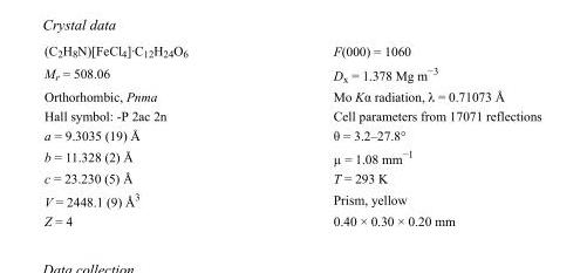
<table><tbody><tr><td>(C<sub>2</sub>H<sub>8</sub>N)[FeCl<sub>4</sub>]·C<sub>12</sub>H<sub>24</sub>O<sub>6</sub></td><td>F(000) = 1060</td></tr><tr><td>M<sub>r</sub> = 508.06</td><td>D<sub>x</sub> = 1.378 Mg m<sup>−3</sup></td></tr><tr><td>Orthorhombic, Pnma</td><td>Mo Kα radiation, λ = 0.71073 Å</td></tr><tr><td>Hall symbol: -P 2ac 2n</td><td>Cell parameters from 17071 reflections</td></tr><tr><td>a = 9.3035 (19) Å</td><td>θ = 3.2–27.8°</td></tr><tr><td>b = 11.328 (2) Å</td><td>µ = 1.08 mm<sup>−1</sup></td></tr><tr><td>c = 23.230 (5) Å</td><td>T = 293 K</td></tr><tr><td>V = 2448.1 (9) Å<sup>3</sup></td><td>Prism, yellow</td></tr><tr><td>Z = 4</td><td>0.40 × 0.30 × 0.20 mm</td></tr></tbody></table>